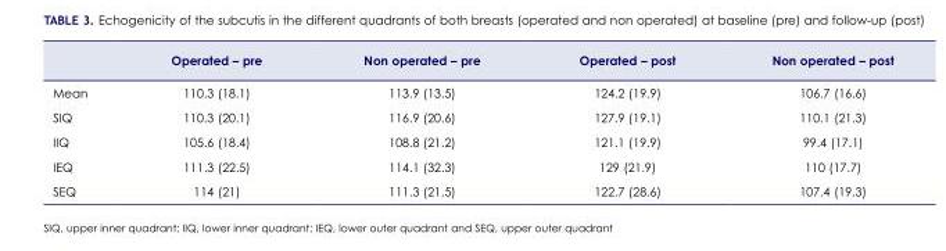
<table><thead><tr><td></td><td>Operated – pre</td><td>Non operated – pre</td><td>Operated – post</td><td>Non operated – post</td></tr></thead><tbody><tr><td>Mean</td><td>110.3 (18.1)</td><td>113.9 (13.5)</td><td>124.2 (19.9)</td><td>106.7 (16.6)</td></tr><tr><td>SIQ</td><td>110.3 (20.1)</td><td>116.9 (20.6)</td><td>127.9 (19.1)</td><td>110.1 (21.3)</td></tr><tr><td>IIQ</td><td>105.6 (18.4)</td><td>108.8 (21.2)</td><td>121.1 (19.9)</td><td>99.4 (17.1)</td></tr><tr><td>IEQ</td><td>111.3 (22.5)</td><td>114.1 (32.3)</td><td>129 (21.9)</td><td>110 (17.7)</td></tr><tr><td>SEQ</td><td>114 (21)</td><td>111.3 (21.5)</td><td>122.7 (28.6)</td><td>107.4 (19.3)</td></tr></tbody></table>